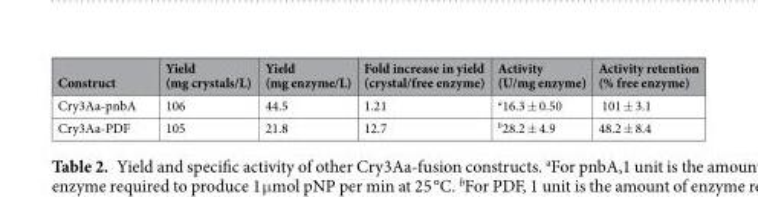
<table><thead><tr><td>Construct</td><td>Yield (mg crystals/L)</td><td>Yield (mg enzyme/L)</td><td>Fold increase in yield (crystal/free enzyme)</td><td>Activity (U/mg enzyme)</td><td>Activity retention (% free enzyme)</td></tr></thead><tbody><tr><td>Cry3Aa-pnbA</td><td>106</td><td>44.5</td><td>1.21</td><td><sup>a</sup>16.3 ± 0.50</td><td>101 ± 3.1</td></tr><tr><td>Cry3Aa-PDF</td><td>105</td><td>21.8</td><td>12.7</td><td><sup>b</sup>28.2 ± 4.9</td><td>48.2 ± 8.4</td></tr></tbody></table>